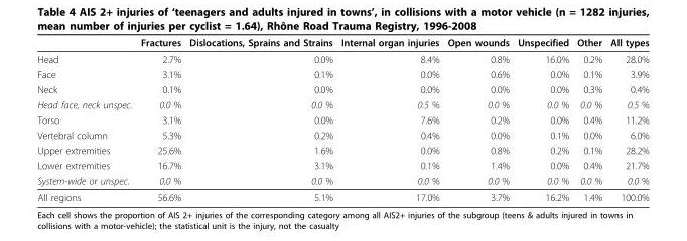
<table><thead><tr><td></td><td>Fractures</td><td>Dislocations, Sprains and Strains</td><td>Internal organ injuries</td><td>Open wounds</td><td>Unspecified</td><td>Other</td><td>All types</td></tr></thead><tbody><tr><td>Head</td><td>2.7%</td><td>0.0%</td><td>8.4%</td><td>0.8%</td><td>16.0%</td><td>0.2%</td><td>28.0%</td></tr><tr><td>Face</td><td>3.1%</td><td>0.1%</td><td>0.0%</td><td>0.6%</td><td>0.0%</td><td>0.1%</td><td>3.9%</td></tr><tr><td>Neck</td><td>0.1%</td><td>0.0%</td><td>0.0%</td><td>0.0%</td><td>0.0%</td><td>0.3%</td><td>0.4%</td></tr><tr><td>Head face, neck unspec.</td><td>0.0 %</td><td>0.0 %</td><td>0.5 %</td><td>0.0 %</td><td>0.0 %</td><td>0.0 %</td><td>0.5 %</td></tr><tr><td>Torso</td><td>3.1%</td><td>0.0%</td><td>7.6%</td><td>0.2%</td><td>0.0%</td><td>0.4%</td><td>11.2%</td></tr><tr><td>Vertebral column</td><td>5.3%</td><td>0.2%</td><td>0.4%</td><td>0.0%</td><td>0.1%</td><td>0.0%</td><td>6.0%</td></tr><tr><td>Upper extremities</td><td>25.6%</td><td>1.6%</td><td>0.0%</td><td>0.8%</td><td>0.2%</td><td>0.1%</td><td>28.2%</td></tr><tr><td>Lower extremities</td><td>16.7%</td><td>3.1%</td><td>0.1%</td><td>1.4%</td><td>0.0%</td><td>0.4%</td><td>21.7%</td></tr><tr><td>System-wide or unspec.</td><td>0.0 %</td><td>0.0 %</td><td>0.0 %</td><td>0.0 %</td><td>0.0 %</td><td>0.0 %</td><td>0.0 %</td></tr><tr><td>All regions</td><td>56.6%</td><td>5.1%</td><td>17.0%</td><td>3.7%</td><td>16.2%</td><td>1.4%</td><td>100.0%</td></tr></tbody></table>